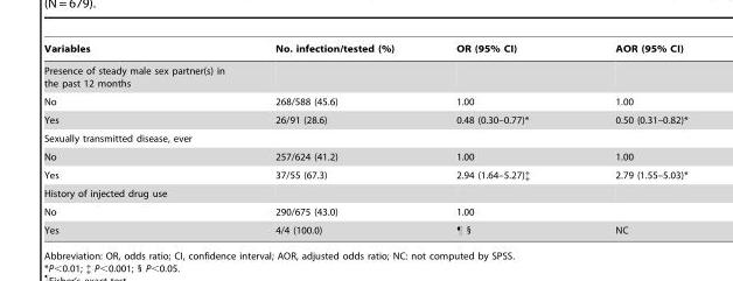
<table><thead><tr><td>Variables</td><td>No. infection/tested (%)</td><td>OR (95% CI)</td><td>AOR (95% CI)</td></tr></thead><tbody><tr><td colspan="4">Presence of steady male sex partner(s) in the past 12 months</td></tr><tr><td>No</td><td>268/588 (45.6)</td><td>1.00</td><td>1.00</td></tr><tr><td>Yes</td><td>26/91 (28.6)</td><td>0.48 (0.30–0.77)*</td><td>0.50 (0.31–0.82)*</td></tr><tr><td colspan="4">Sexually transmitted disease, ever</td></tr><tr><td>No</td><td>257/624 (41.2)</td><td>1.00</td><td>1.00</td></tr><tr><td>Yes</td><td>37/55 (67.3)</td><td>2.94 (1.64–5.27)‡</td><td>2.79 (1.55–5.03)*</td></tr><tr><td colspan="4">History of injected drug use</td></tr><tr><td>No</td><td>290/675 (43.0)</td><td>1.00</td><td></td></tr><tr><td>Yes</td><td>4/4 (100.0)</td><td>¶ §</td><td>NC</td></tr></tbody></table>